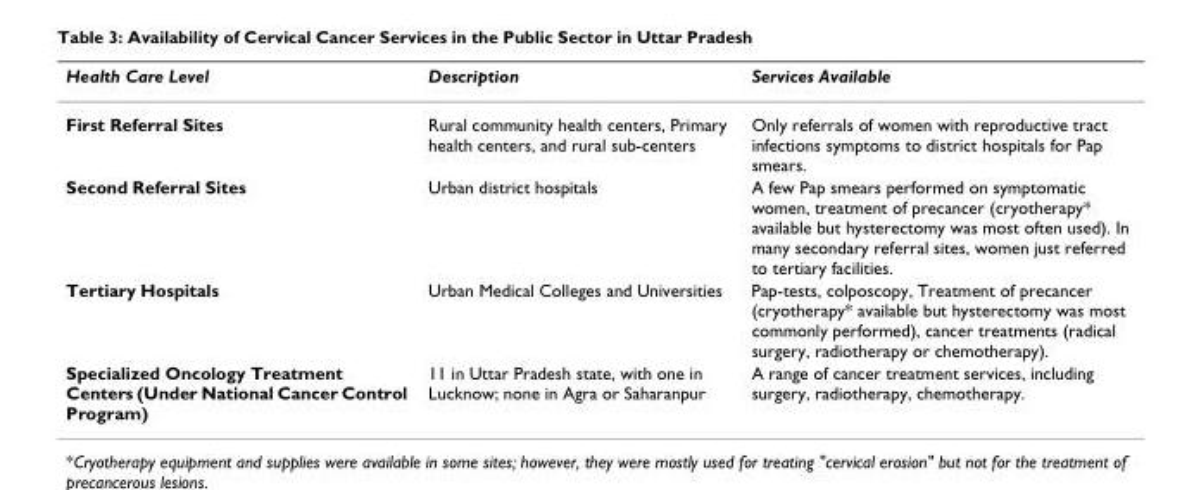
<table><thead><tr><td>Health Care Level</td><td>Description</td><td>Services Available</td></tr></thead><tbody><tr><td>First Referral Sites</td><td>Rural community health centers, Primary health centers, and rural sub-centers</td><td>Only referrals of women with reproductive tract infections symptoms to district hospitals for Pap smears.</td></tr><tr><td>Second Referral Sites</td><td>Urban district hospitals</td><td>A few Pap smears performed on symptomatic women, treatment of precancer (cryotherapy* available but hysterectomy was most often used). In many secondary referral sites, women just referred to tertiary facilities.</td></tr><tr><td>Tertiary Hospitals</td><td>Urban Medical Colleges and Universities</td><td>Pap-tests, colposcopy, Treatment of precancer (cryotherapy* available but hysterectomy was most commonly performed), cancer treatments (radical surgery, radiotherapy or chemotherapy).</td></tr><tr><td>Specialized Oncology Treatment Centers (Under National Cancer Control Program)</td><td>11 in Uttar Pradesh state, with one in Lucknow; none in Agra or Saharanpur</td><td>A range of cancer treatment services, including surgery, radiotherapy, chemotherapy.</td></tr></tbody></table>